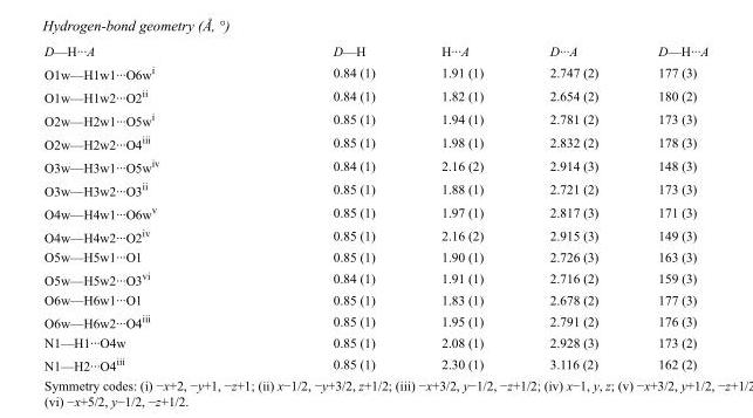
<table><tbody><tr><td>D—H···A</td><td>D—H</td><td>H···A</td><td>D···A</td><td>D—H···A</td></tr><tr><td>O1w—H1w1···O6w<sup>i</sup></td><td>0.84 (1)</td><td>1.91 (1)</td><td>2.747 (2)</td><td>177 (3)</td></tr><tr><td>O1w—H1w2···O2<sup>ii</sup></td><td>0.84 (1)</td><td>1.82 (1)</td><td>2.654 (2)</td><td>180 (2)</td></tr><tr><td>O2w—H2w1···O5w<sup>i</sup></td><td>0.85 (1)</td><td>1.94 (1)</td><td>2.781 (2)</td><td>173 (3)</td></tr><tr><td>O2w—H2w2···O4<sup>iii</sup></td><td>0.85 (1)</td><td>1.98 (1)</td><td>2.832 (2)</td><td>178 (3)</td></tr><tr><td>O3w—H3w1···O5w<sup>iv</sup></td><td>0.84 (1)</td><td>2.16 (2)</td><td>2.914 (3)</td><td>148 (3)</td></tr><tr><td>O3w—H3w2···O3<sup>ii</sup></td><td>0.85 (1)</td><td>1.88 (1)</td><td>2.721 (2)</td><td>173 (3)</td></tr><tr><td>O4w—H4w1···O6w<sup>v</sup></td><td>0.85 (1)</td><td>1.97 (1)</td><td>2.817 (3)</td><td>171 (3)</td></tr><tr><td>O4w—H4w2···O2<sup>iv</sup></td><td>0.85 (1)</td><td>2.16 (2)</td><td>2.915 (3)</td><td>149 (3)</td></tr><tr><td>O5w—H5w1···O1</td><td>0.85 (1)</td><td>1.90 (1)</td><td>2.726 (3)</td><td>163 (3)</td></tr><tr><td>O5w—H5w2···O3<sup>vi</sup></td><td>0.84 (1)</td><td>1.91 (1)</td><td>2.716 (2)</td><td>159 (3)</td></tr><tr><td>O6w—H6w1···O1</td><td>0.85 (1)</td><td>1.83 (1)</td><td>2.678 (2)</td><td>177 (3)</td></tr><tr><td>O6w—H6w2···O4<sup>iii</sup></td><td>0.85 (1)</td><td>1.95 (1)</td><td>2.791 (2)</td><td>176 (3)</td></tr><tr><td>N1—H1···O4w</td><td>0.85 (1)</td><td>2.08 (1)</td><td>2.928 (3)</td><td>173 (2)</td></tr><tr><td>N1—H2···O4<sup>iii</sup></td><td>0.85 (1)</td><td>2.30 (1)</td><td>3.116 (2)</td><td>162 (2)</td></tr></tbody></table>